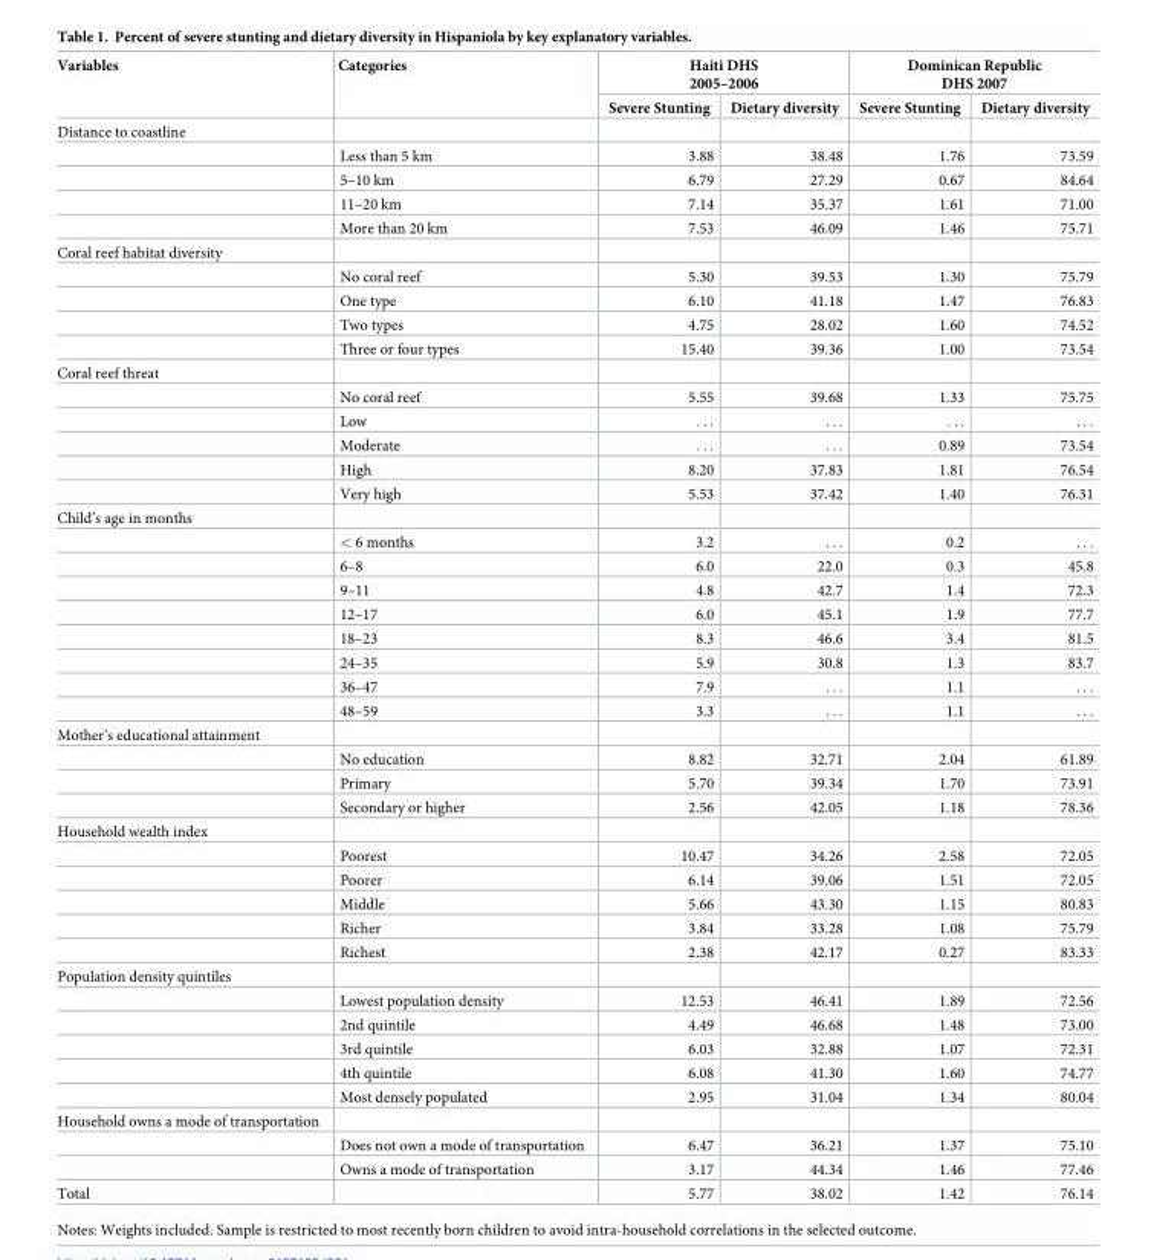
<table><thead><tr><td rowspan="2">Variables</td><td rowspan="2">Categories</td><td colspan="2">Haiti DHS 2005–2006</td><td colspan="2">Dominican Republic DHS 2007</td></tr><tr><td>Severe Stunting</td><td>Dietary diversity</td><td>Severe Stunting</td><td>Dietary diversity</td></tr></thead><tbody><tr><td colspan="6">Distance to coastline</td></tr><tr><td></td><td>Less than 5 km</td><td>3.88</td><td>38.48</td><td>1.76</td><td>73.59</td></tr><tr><td></td><td>5–10 km</td><td>6.79</td><td>27.29</td><td>0.67</td><td>84.64</td></tr><tr><td></td><td>11–20 km</td><td>7.14</td><td>35.37</td><td>1.61</td><td>71.00</td></tr><tr><td></td><td>More than 20 km</td><td>7.53</td><td>46.09</td><td>1.46</td><td>75.71</td></tr><tr><td colspan="6">Coral reef habitat diversity</td></tr><tr><td></td><td>No coral reef</td><td>5.30</td><td>39.53</td><td>1.30</td><td>75.79</td></tr><tr><td></td><td>One type</td><td>6.10</td><td>41.18</td><td>1.47</td><td>76.83</td></tr><tr><td></td><td>Two types</td><td>4.75</td><td>28.02</td><td>1.60</td><td>74.52</td></tr><tr><td></td><td>Three or four types</td><td>15.40</td><td>39.36</td><td>1.00</td><td>73.54</td></tr><tr><td colspan="6">Coral reef threat</td></tr><tr><td></td><td>No coral reef</td><td>5.55</td><td>39.68</td><td>1.33</td><td>75.75</td></tr><tr><td></td><td>Low</td><td>. . .</td><td>. . .</td><td>. . .</td><td>. . .</td></tr><tr><td></td><td>Moderate</td><td>. . .</td><td>. . .</td><td>0.89</td><td>73.54</td></tr><tr><td></td><td>High</td><td>8.20</td><td>37.83</td><td>1.81</td><td>76.54</td></tr><tr><td></td><td>Very high</td><td>5.53</td><td>37.42</td><td>1.40</td><td>76.31</td></tr><tr><td colspan="6">Child’s age in months</td></tr><tr><td></td><td>&lt; 6 months</td><td>3.2</td><td>. . .</td><td>0.2</td><td>. . .</td></tr><tr><td></td><td>6–8</td><td>6.0</td><td>22.0</td><td>0.3</td><td>45.8</td></tr><tr><td></td><td>9–11</td><td>4.8</td><td>42.7</td><td>1.4</td><td>72.3</td></tr><tr><td></td><td>12–17</td><td>6.0</td><td>45.1</td><td>1.9</td><td>77.7</td></tr><tr><td></td><td>18–23</td><td>8.3</td><td>46.6</td><td>3.4</td><td>81.5</td></tr><tr><td></td><td>24–35</td><td>5.9</td><td>30.8</td><td>1.3</td><td>83.7</td></tr><tr><td></td><td>36–47</td><td>7.9</td><td>. . .</td><td>1.1</td><td>. . .</td></tr><tr><td></td><td>48–59</td><td>3.3</td><td>. . .</td><td>1.1</td><td>. . .</td></tr><tr><td colspan="6">Mother’s educational attainment</td></tr><tr><td></td><td>No education</td><td>8.82</td><td>32.71</td><td>2.04</td><td>61.89</td></tr><tr><td></td><td>Primary</td><td>5.70</td><td>39.34</td><td>1.70</td><td>73.91</td></tr><tr><td></td><td>Secondary or higher</td><td>2.56</td><td>42.05</td><td>1.18</td><td>78.36</td></tr><tr><td colspan="6">Household wealth index</td></tr><tr><td></td><td>Poorest</td><td>10.47</td><td>34.26</td><td>2.58</td><td>72.05</td></tr><tr><td></td><td>Poorer</td><td>6.14</td><td>39.06</td><td>1.51</td><td>72.05</td></tr><tr><td></td><td>Middle</td><td>5.66</td><td>43.30</td><td>1.15</td><td>80.83</td></tr><tr><td></td><td>Richer</td><td>3.84</td><td>33.28</td><td>1.08</td><td>75.79</td></tr><tr><td></td><td>Richest</td><td>2.38</td><td>42.17</td><td>0.27</td><td>83.33</td></tr><tr><td colspan="6">Population density quintiles</td></tr><tr><td></td><td>Lowest population density</td><td>12.53</td><td>46.41</td><td>1.89</td><td>72.56</td></tr><tr><td></td><td>2nd quintile</td><td>4.49</td><td>46.68</td><td>1.48</td><td>73.00</td></tr><tr><td></td><td>3rd quintile</td><td>6.03</td><td>32.88</td><td>1.07</td><td>72.31</td></tr><tr><td></td><td>4th quintile</td><td>6.08</td><td>41.30</td><td>1.60</td><td>74.77</td></tr><tr><td></td><td>Most densely populated</td><td>2.95</td><td>31.04</td><td>1.34</td><td>80.04</td></tr><tr><td colspan="6">Household owns a mode of transportation</td></tr><tr><td></td><td>Does not own a mode of transportation</td><td>6.47</td><td>36.21</td><td>1.37</td><td>75.10</td></tr><tr><td></td><td>Owns a mode of transportation</td><td>3.17</td><td>44.34</td><td>1.46</td><td>77.46</td></tr><tr><td>Total</td><td></td><td>5.77</td><td>38.02</td><td>1.42</td><td>76.14</td></tr></tbody></table>